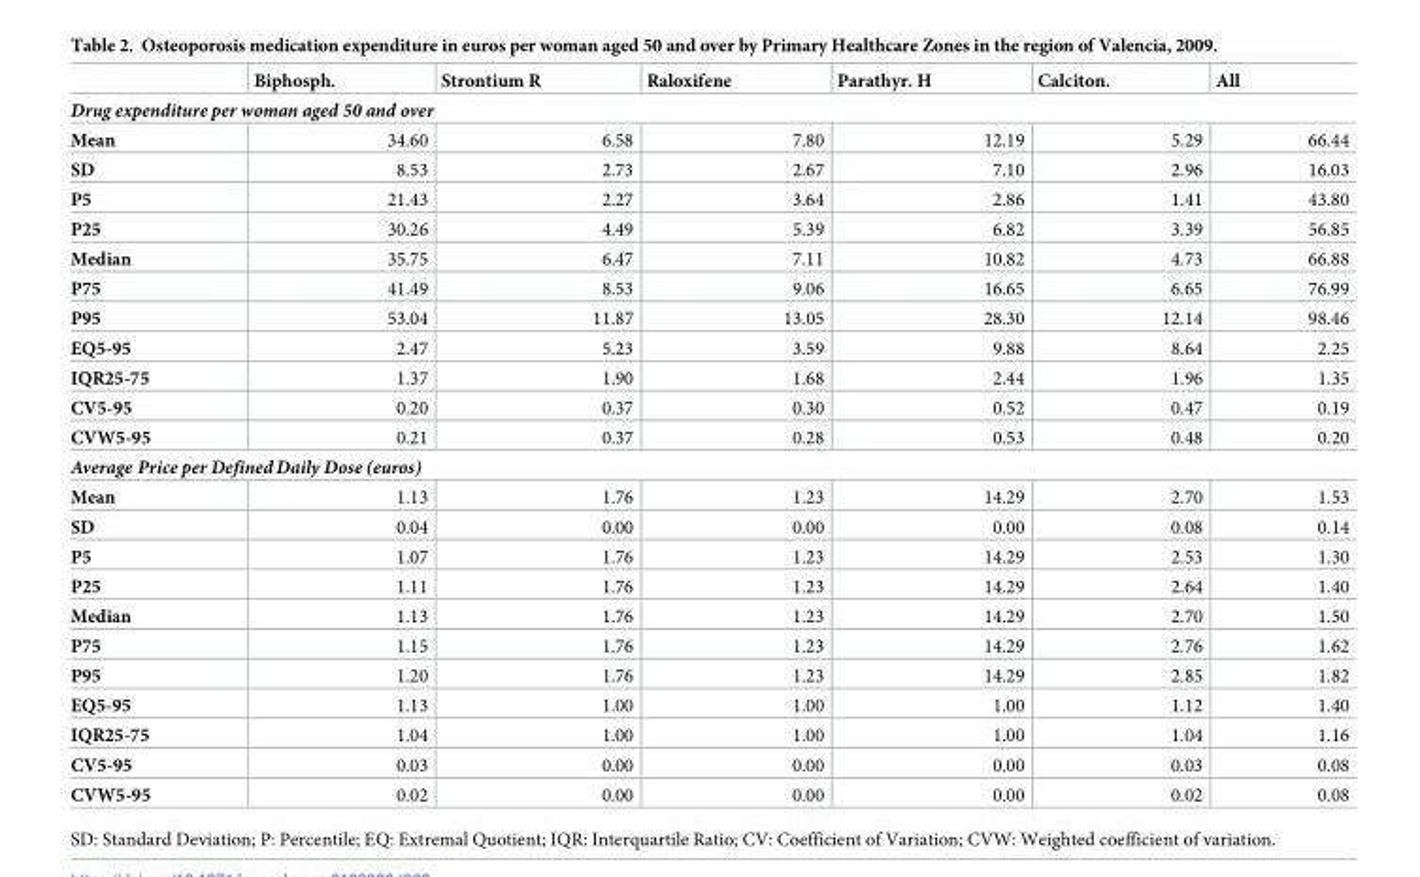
<table><thead><tr><td></td><td>Biphosph.</td><td>Strontium R</td><td>Raloxifene</td><td>Parathyr. H</td><td>Calciton.</td><td>All</td></tr></thead><tbody><tr><td colspan="7">Drug expenditure per woman aged 50 and over</td></tr><tr><td>Mean</td><td>34.60</td><td>6.58</td><td>7.80</td><td>12.19</td><td>5.29</td><td>66.44</td></tr><tr><td>SD</td><td>8.53</td><td>2.73</td><td>2.67</td><td>7.10</td><td>2.96</td><td>16.03</td></tr><tr><td>P5</td><td>21.43</td><td>2.27</td><td>3.64</td><td>2.86</td><td>1.41</td><td>43.80</td></tr><tr><td>P25</td><td>30.26</td><td>4.49</td><td>5.39</td><td>6.82</td><td>3.39</td><td>56.85</td></tr><tr><td>Median</td><td>35.75</td><td>6.47</td><td>7.11</td><td>10.82</td><td>4.73</td><td>66.88</td></tr><tr><td>P75</td><td>41.49</td><td>8.53</td><td>9.06</td><td>16.65</td><td>6.65</td><td>76.99</td></tr><tr><td>P95</td><td>53.04</td><td>11.87</td><td>13.05</td><td>28.30</td><td>12.14</td><td>98.46</td></tr><tr><td>EQ5-95</td><td>2.47</td><td>5.23</td><td>3.59</td><td>9.88</td><td>8.64</td><td>2.25</td></tr><tr><td>IQR25-75</td><td>1.37</td><td>1.90</td><td>1.68</td><td>2.44</td><td>1.96</td><td>1.35</td></tr><tr><td>CV5-95</td><td>0.20</td><td>0.37</td><td>0.30</td><td>0.52</td><td>0.47</td><td>0.19</td></tr><tr><td>CVW5-95</td><td>0.21</td><td>0.37</td><td>0.28</td><td>0.53</td><td>0.48</td><td>0.20</td></tr><tr><td colspan="7">Average Price per Defined Daily Dose (euros)</td></tr><tr><td>Mean</td><td>1.13</td><td>1.76</td><td>1.23</td><td>14.29</td><td>2.70</td><td>1.53</td></tr><tr><td>SD</td><td>0.04</td><td>0.00</td><td>0.00</td><td>0.00</td><td>0.08</td><td>0.14</td></tr><tr><td>P5</td><td>1.07</td><td>1.76</td><td>1.23</td><td>14.29</td><td>2.53</td><td>1.30</td></tr><tr><td>P25</td><td>1.11</td><td>1.76</td><td>1.23</td><td>14.29</td><td>2.64</td><td>1.40</td></tr><tr><td>Median</td><td>1.13</td><td>1.76</td><td>1.23</td><td>14.29</td><td>2.70</td><td>1.50</td></tr><tr><td>P75</td><td>1.15</td><td>1.76</td><td>1.23</td><td>14.29</td><td>2.76</td><td>1.62</td></tr><tr><td>P95</td><td>1.20</td><td>1.76</td><td>1.23</td><td>14.29</td><td>2.85</td><td>1.82</td></tr><tr><td>EQ5-95</td><td>1.13</td><td>1.00</td><td>1.00</td><td>1.00</td><td>1.12</td><td>1.40</td></tr><tr><td>IQR25-75</td><td>1.04</td><td>1.00</td><td>1.00</td><td>1.00</td><td>1.04</td><td>1.16</td></tr><tr><td>CV5-95</td><td>0.03</td><td>0.00</td><td>0.00</td><td>0.00</td><td>0.03</td><td>0.08</td></tr><tr><td>CVW5-95</td><td>0.02</td><td>0.00</td><td>0.00</td><td>0.00</td><td>0.02</td><td>0.08</td></tr></tbody></table>